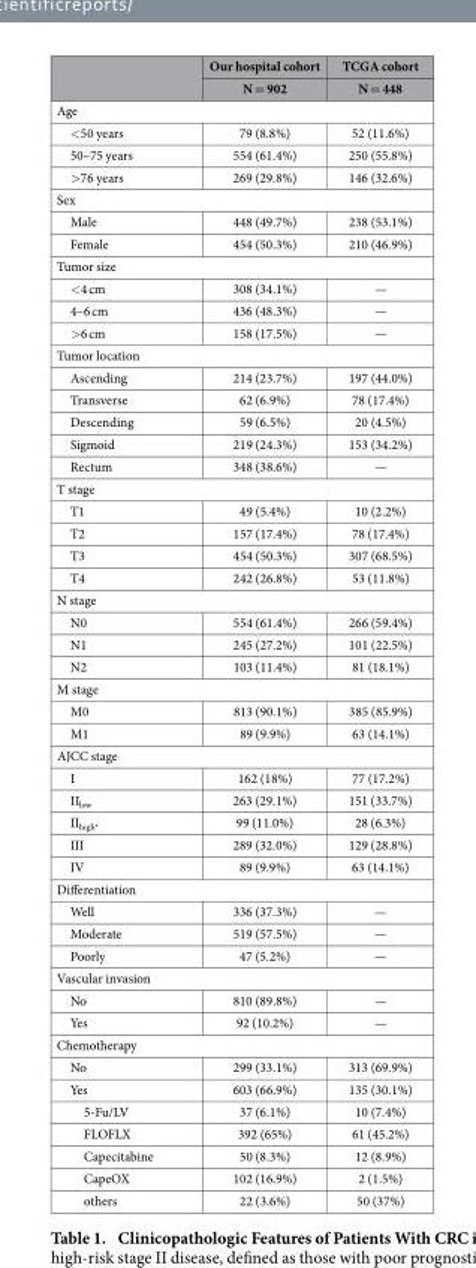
<table><thead><tr><td rowspan="2"></td><td rowspan="2">Our hospital cohort N = 902</td><td rowspan="2">TCGA cohort N = 448</td></tr><tr></tr></thead><tbody><tr><td colspan="3">Age</td></tr><tr><td>&lt; 50 years</td><td>79 (8.8%)</td><td>52 (11.6%)</td></tr><tr><td>50–75 years</td><td>554 (61.4%)</td><td>250 (55.8%)</td></tr><tr><td>&gt; 76 years</td><td>269 (29.8%)</td><td>146 (32.6%)</td></tr><tr><td colspan="3">Sex</td></tr><tr><td>Male</td><td>448 (49.7%)</td><td>238 (53.1%)</td></tr><tr><td>Female</td><td>454 (50.3%)</td><td>210 (46.9%)</td></tr><tr><td colspan="3">Tumor size</td></tr><tr><td>&lt; 4 cm</td><td>308 (34.1%)</td><td>—</td></tr><tr><td>4–6 cm</td><td>436 (48.3%)</td><td>—</td></tr><tr><td>&gt; 6 cm</td><td>158 (17.5%)</td><td>—</td></tr><tr><td colspan="3">Tumor location</td></tr><tr><td>Ascending</td><td>214 (23.7%)</td><td>197 (44.0%)</td></tr><tr><td>Transverse</td><td>62 (6.9%)</td><td>78 (17.4%)</td></tr><tr><td>Descending</td><td>59 (6.5%)</td><td>20 (4.5%)</td></tr><tr><td>Sigmoid</td><td>219 (24.3%)</td><td>153 (34.2%)</td></tr><tr><td>Rectum</td><td>348 (38.6%)</td><td>—</td></tr><tr><td colspan="3">T stage</td></tr><tr><td>T1</td><td>49 (5.4%)</td><td>10 (2.2%)</td></tr><tr><td>T2</td><td>157 (17.4%)</td><td>78 (17.4%)</td></tr><tr><td>T3</td><td>454 (50.3%)</td><td>307 (68.5%)</td></tr><tr><td>T4</td><td>242 (26.8%)</td><td>53 (11.8%)</td></tr><tr><td colspan="3">N stage</td></tr><tr><td>N0</td><td>554 (61.4%)</td><td>266 (59.4%)</td></tr><tr><td>N1</td><td>245 (27.2%)</td><td>101 (22.5%)</td></tr><tr><td>N2</td><td>103 (11.4%)</td><td>81 (18.1%)</td></tr><tr><td colspan="3">M stage</td></tr><tr><td>M0</td><td>813 (90.1%)</td><td>385 (85.9%)</td></tr><tr><td>M1</td><td>89 (9.9%)</td><td>63 (14.1%)</td></tr><tr><td colspan="3">AJCC stage</td></tr><tr><td>I</td><td>162 (18%)</td><td>77 (17.2%)</td></tr><tr><td>II<sub>low</sub></td><td>263 (29.1%)</td><td>151 (33.7%)</td></tr><tr><td>II<sub>high</sub>*</td><td>99 (11.0%)</td><td>28 (6.3%)</td></tr><tr><td>III</td><td>289 (32.0%)</td><td>129 (28.8%)</td></tr><tr><td>IV</td><td>89 (9.9%)</td><td>63 (14.1%)</td></tr><tr><td colspan="3">Differentiation</td></tr><tr><td>Well</td><td>336 (37.3%)</td><td>—</td></tr><tr><td>Moderate</td><td>519 (57.5%)</td><td>—</td></tr><tr><td>Poorly</td><td>47 (5.2%)</td><td>—</td></tr><tr><td colspan="3">Vascular invasion</td></tr><tr><td>No</td><td>810 (89.8%)</td><td>—</td></tr><tr><td>Yes</td><td>92 (10.2%)</td><td>—</td></tr><tr><td colspan="3">Chemotherapy</td></tr><tr><td>No</td><td>299 (33.1%)</td><td>313 (69.9%)</td></tr><tr><td>Yes</td><td>603 (66.9%)</td><td>135 (30.1%)</td></tr><tr><td>5-Fu/LV</td><td>37 (6.1%)</td><td>10 (7.4%)</td></tr><tr><td>FLOFLX</td><td>392 (65%)</td><td>61 (45.2%)</td></tr><tr><td>Capecitabine</td><td>50 (8.3%)</td><td>12 (8.9%)</td></tr><tr><td>CapeOX</td><td>102 (16.9%)</td><td>2 (1.5%)</td></tr><tr><td>others</td><td>22 (3.6%)</td><td>50 (37%)</td></tr></tbody></table>